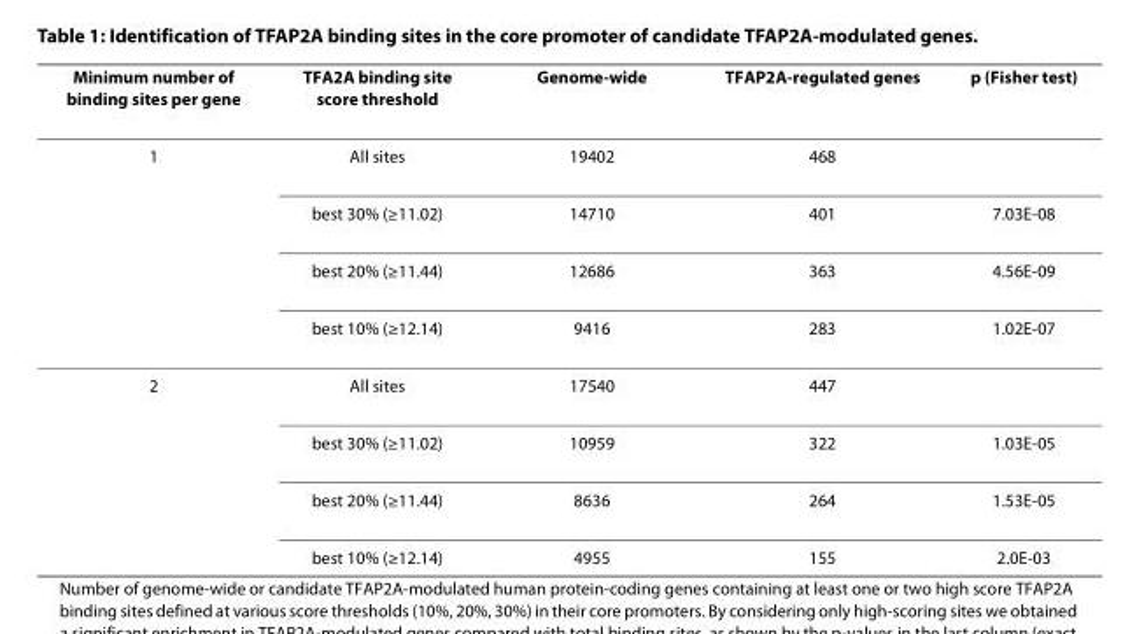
<table><thead><tr><td>Minimum number of binding sites per gene</td><td>TFA2A binding site score threshold</td><td>Genome-wide</td><td>TFAP2A-regulated genes</td><td>p (Fisher test)</td></tr></thead><tbody><tr><td rowspan="4">1</td><td>All sites</td><td>19402</td><td>468</td><td></td></tr><tr><td>best 30% (≥11.02)</td><td>14710</td><td>401</td><td>7.03E-08</td></tr><tr><td>best 20% (≥11.44)</td><td>12686</td><td>363</td><td>4.56E-09</td></tr><tr><td>best 10% (≥12.14)</td><td>9416</td><td>283</td><td>1.02E-07</td></tr><tr><td rowspan="4">2</td><td>All sites</td><td>17540</td><td>447</td><td></td></tr><tr><td>best 30% (≥11.02)</td><td>10959</td><td>322</td><td>1.03E-05</td></tr><tr><td>best 20% (≥11.44)</td><td>8636</td><td>264</td><td>1.53E-05</td></tr><tr><td>best 10% (≥12.14)</td><td>4955</td><td>155</td><td>2.0E-03</td></tr></tbody></table>